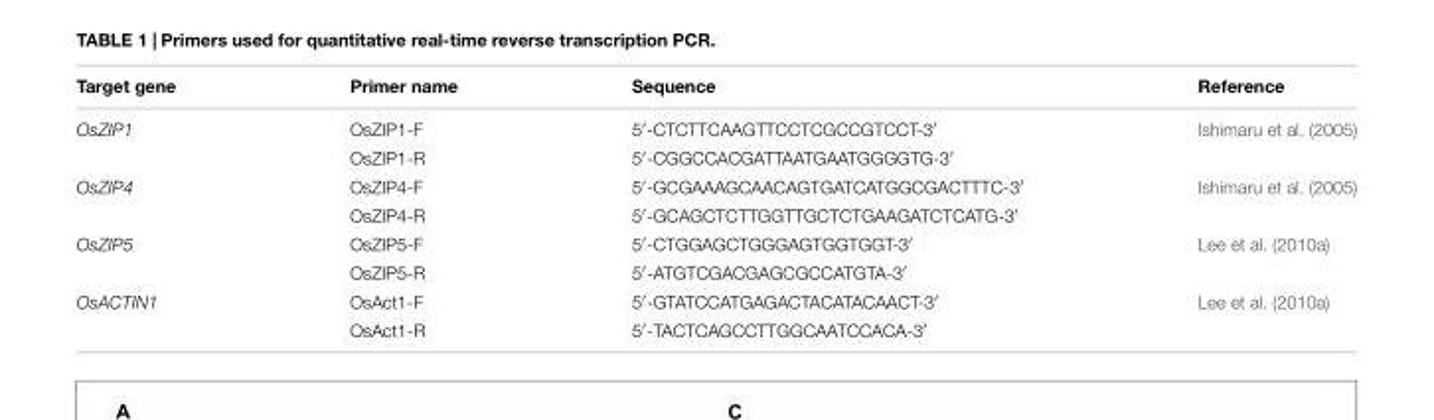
<table><thead><tr><td>Target gene</td><td>Primer name</td><td>Sequence</td><td>Reference</td></tr></thead><tbody><tr><td rowspan="2">OsZIP1</td><td>OsZIP1-F</td><td>5′-CTCTTCAAGTTCCTCGCCGTCCT-3′</td><td>Ishimaru et al. (2005)</td></tr><tr><td>OsZIP1-R</td><td>5′-CGGCCACGATTAATGAATGGGGTG-3′</td><td></td></tr><tr><td rowspan="2">OsZIP4</td><td>OsZIP4-F</td><td>5′-GCGAAAGCAACAGTGATCATGGCGACTTTC-3′</td><td>Ishimaru et al. (2005)</td></tr><tr><td>OsZIP4-R</td><td>5′-GCAGCTCTTGGTTGCTCTGAAGATCTCATG-3′</td><td></td></tr><tr><td rowspan="2">OsZIP5</td><td>OsZIP5-F</td><td>5′-CTGGAGCTGGGAGTGGTGGT-3′</td><td>Lee et al. (2010a)</td></tr><tr><td>OsZIP5-R</td><td>5′-ATGTCGACGAGCGCCATGTA-3′</td><td></td></tr><tr><td rowspan="2">OsACTIN1</td><td>OsAct1-F</td><td>5′-GTATCCATGAGACTACATACAACT-3′</td><td>Lee et al. (2010a)</td></tr><tr><td>OsAct1-R</td><td>5′-TACTCAGCCTTGGCAATCCACA-3′</td><td></td></tr></tbody></table>